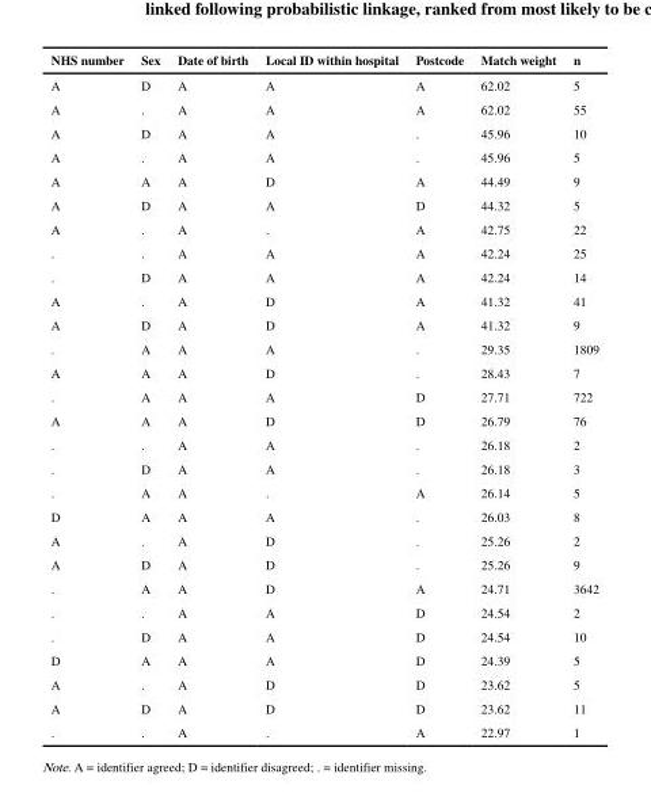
<table><thead><tr><td>NHS number</td><td>Sex</td><td>Date of birth</td><td>Local ID within hospital</td><td>Postcode</td><td>Match weight</td><td>n</td></tr></thead><tbody><tr><td>A</td><td>D</td><td>A</td><td>A</td><td>A</td><td>62.02</td><td>5</td></tr><tr><td>A</td><td>.</td><td>A</td><td>A</td><td>A</td><td>62.02</td><td>55</td></tr><tr><td>A</td><td>D</td><td>A</td><td>A</td><td>.</td><td>45.96</td><td>10</td></tr><tr><td>A</td><td>.</td><td>A</td><td>A</td><td>.</td><td>45.96</td><td>5</td></tr><tr><td>A</td><td>A</td><td>A</td><td>D</td><td>A</td><td>44.49</td><td>9</td></tr><tr><td>A</td><td>D</td><td>A</td><td>A</td><td>D</td><td>44.32</td><td>5</td></tr><tr><td>A</td><td>.</td><td>A</td><td>.</td><td>A</td><td>42.75</td><td>22</td></tr><tr><td>.</td><td>.</td><td>A</td><td>A</td><td>A</td><td>42.24</td><td>25</td></tr><tr><td>.</td><td>D</td><td>A</td><td>A</td><td>A</td><td>42.24</td><td>14</td></tr><tr><td>A</td><td>.</td><td>A</td><td>D</td><td>A</td><td>41.32</td><td>41</td></tr><tr><td>A</td><td>D</td><td>A</td><td>D</td><td>A</td><td>41.32</td><td>9</td></tr><tr><td>.</td><td>A</td><td>A</td><td>A</td><td>.</td><td>29.35</td><td>1809</td></tr><tr><td>A</td><td>A</td><td>A</td><td>D</td><td>.</td><td>28.43</td><td>7</td></tr><tr><td>.</td><td>A</td><td>A</td><td>A</td><td>D</td><td>27.71</td><td>722</td></tr><tr><td>A</td><td>A</td><td>A</td><td>D</td><td>D</td><td>26.79</td><td>76</td></tr><tr><td>.</td><td>.</td><td>A</td><td>A</td><td>.</td><td>26.18</td><td>2</td></tr><tr><td>.</td><td>D</td><td>A</td><td>A</td><td>.</td><td>26.18</td><td>3</td></tr><tr><td>.</td><td>A</td><td>A</td><td>.</td><td>A</td><td>26.14</td><td>5</td></tr><tr><td>D</td><td>A</td><td>A</td><td>A</td><td>.</td><td>26.03</td><td>8</td></tr><tr><td>A</td><td>.</td><td>A</td><td>D</td><td>.</td><td>25.26</td><td>2</td></tr><tr><td>A</td><td>D</td><td>A</td><td>D</td><td>.</td><td>25.26</td><td>9</td></tr><tr><td>.</td><td>A</td><td>A</td><td>D</td><td>A</td><td>24.71</td><td>3642</td></tr><tr><td>.</td><td>.</td><td>A</td><td>A</td><td>D</td><td>24.54</td><td>2</td></tr><tr><td>.</td><td>D</td><td>A</td><td>A</td><td>D</td><td>24.54</td><td>10</td></tr><tr><td>D</td><td>A</td><td>A</td><td>A</td><td>D</td><td>24.39</td><td>5</td></tr><tr><td>A</td><td>.</td><td>A</td><td>D</td><td>D</td><td>23.62</td><td>5</td></tr><tr><td>A</td><td>D</td><td>A</td><td>D</td><td>D</td><td>23.62</td><td>11</td></tr><tr><td>.</td><td>.</td><td>A</td><td>.</td><td>A</td><td>22.97</td><td>1</td></tr></tbody></table>